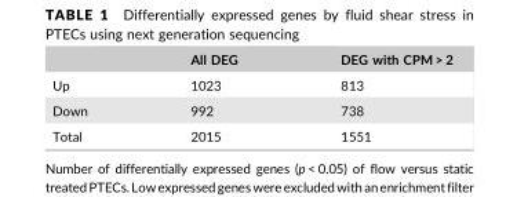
<table><thead><tr><td></td><td>All DEG</td><td>DEG with CPM &gt; 2</td></tr></thead><tbody><tr><td>Up</td><td>1023</td><td>813</td></tr><tr><td>Down</td><td>992</td><td>738</td></tr><tr><td>Total</td><td>2015</td><td>1551</td></tr></tbody></table>